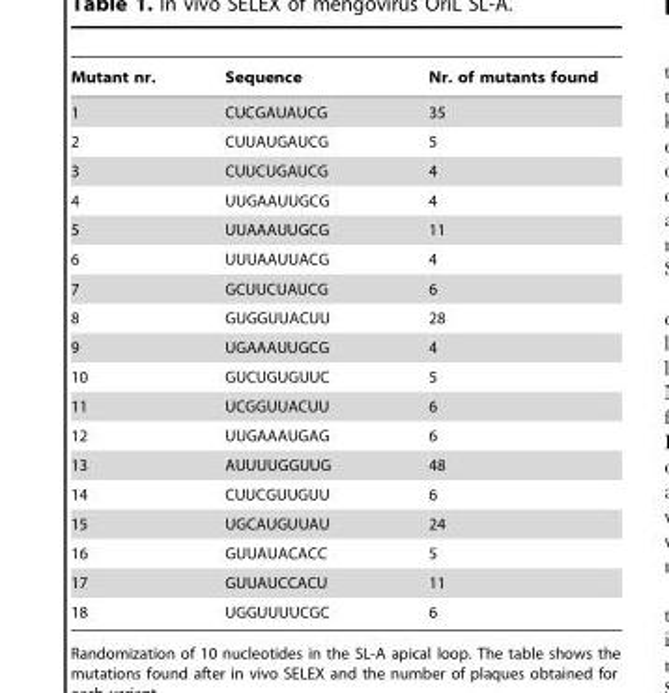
<table><thead><tr><td>Mutant nr.</td><td>Sequence</td><td>Nr. of mutants found</td></tr></thead><tbody><tr><td>1</td><td>CUCGAUAUCG</td><td>35</td></tr><tr><td>2</td><td>CUUAUGAUCG</td><td>5</td></tr><tr><td>3</td><td>CUUCUGAUCG</td><td>4</td></tr><tr><td>4</td><td>UUGAAUUGCG</td><td>4</td></tr><tr><td>5</td><td>UUAAAUUGCG</td><td>11</td></tr><tr><td>6</td><td>UUUAAUUACG</td><td>4</td></tr><tr><td>7</td><td>GCUUCUAUCG</td><td>6</td></tr><tr><td>8</td><td>GUGGUUACUU</td><td>28</td></tr><tr><td>9</td><td>UGAAAUUGCG</td><td>4</td></tr><tr><td>10</td><td>GUCUGUGUUC</td><td>5</td></tr><tr><td>11</td><td>UCGGUUACUU</td><td>6</td></tr><tr><td>12</td><td>UUGAAAUGAG</td><td>6</td></tr><tr><td>13</td><td>AUUUUGGUUG</td><td>48</td></tr><tr><td>14</td><td>CUUCGUUGUU</td><td>6</td></tr><tr><td>15</td><td>UGCAUGUUAU</td><td>24</td></tr><tr><td>16</td><td>GUUAUACACC</td><td>5</td></tr><tr><td>17</td><td>GUUAUCCACU</td><td>11</td></tr><tr><td>18</td><td>UGGUUUUCGC</td><td>6</td></tr></tbody></table>